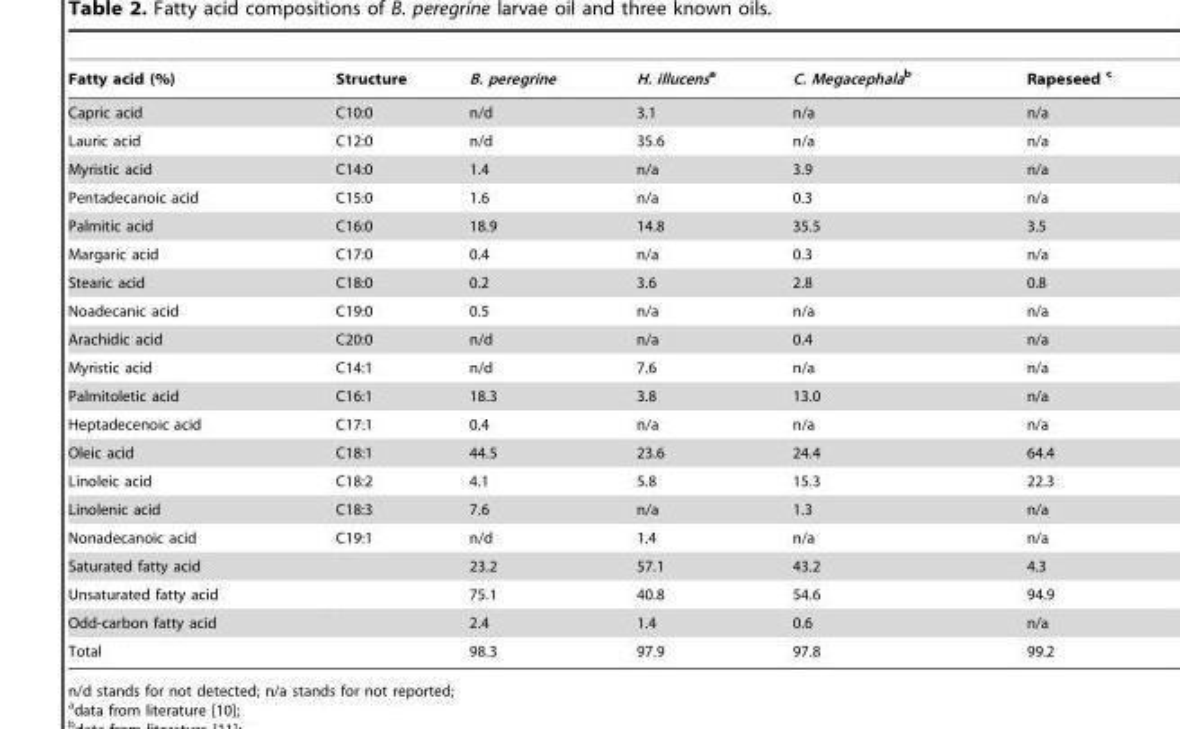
<table><thead><tr><td>Fatty acid (%)</td><td>Structure</td><td>B. peregrine</td><td>H. illucensa</td><td>C. Megacephalab</td><td>Rapeseed c</td></tr></thead><tbody><tr><td>Capric acid</td><td>C10:0</td><td>n/d</td><td>3.1</td><td>n/a</td><td>n/a</td></tr><tr><td>Lauric acid</td><td>C12:0</td><td>n/d</td><td>35.6</td><td>n/a</td><td>n/a</td></tr><tr><td>Myristic acid</td><td>C14:0</td><td>1.4</td><td>n/a</td><td>3.9</td><td>n/a</td></tr><tr><td>Pentadecanoic acid</td><td>C15:0</td><td>1.6</td><td>n/a</td><td>0.3</td><td>n/a</td></tr><tr><td>Palmitic acid</td><td>C16:0</td><td>18.9</td><td>14.8</td><td>35.5</td><td>3.5</td></tr><tr><td>Margaric acid</td><td>C17:0</td><td>0.4</td><td>n/a</td><td>0.3</td><td>n/a</td></tr><tr><td>Stearic acid</td><td>C18:0</td><td>0.2</td><td>3.6</td><td>2.8</td><td>0.8</td></tr><tr><td>Noadecanic acid</td><td>C19:0</td><td>0.5</td><td>n/a</td><td>n/a</td><td>n/a</td></tr><tr><td>Arachidic acid</td><td>C20:0</td><td>n/d</td><td>n/a</td><td>0.4</td><td>n/a</td></tr><tr><td>Myristic acid</td><td>C14:1</td><td>n/d</td><td>7.6</td><td>n/a</td><td>n/a</td></tr><tr><td>Palmitoletic acid</td><td>C16:1</td><td>18.3</td><td>3.8</td><td>13.0</td><td>n/a</td></tr><tr><td>Heptadecenoic acid</td><td>C17:1</td><td>0.4</td><td>n/a</td><td>n/a</td><td>n/a</td></tr><tr><td>Oleic acid</td><td>C18:1</td><td>44.5</td><td>23.6</td><td>24.4</td><td>64.4</td></tr><tr><td>Linoleic acid</td><td>C18:2</td><td>4.1</td><td>5.8</td><td>15.3</td><td>22.3</td></tr><tr><td>Linolenic acid</td><td>C18:3</td><td>7.6</td><td>n/a</td><td>1.3</td><td>n/a</td></tr><tr><td>Nonadecanoic acid</td><td>C19:1</td><td>n/d</td><td>1.4</td><td>n/a</td><td>n/a</td></tr><tr><td>Saturated fatty acid</td><td></td><td>23.2</td><td>57.1</td><td>43.2</td><td>4.3</td></tr><tr><td>Unsaturated fatty acid</td><td></td><td>75.1</td><td>40.8</td><td>54.6</td><td>94.9</td></tr><tr><td>Odd-carbon fatty acid</td><td></td><td>2.4</td><td>1.4</td><td>0.6</td><td>n/a</td></tr><tr><td>Total</td><td></td><td>98.3</td><td>97.9</td><td>97.8</td><td>99.2</td></tr></tbody></table>